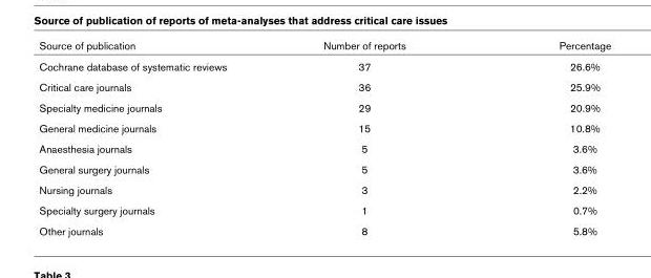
<table><thead><tr><td>Source of publication</td><td>Number of reports</td><td>Percentage</td></tr></thead><tbody><tr><td>Cochrane database of systematic reviews</td><td>37</td><td>26.6%</td></tr><tr><td>Critical care journals</td><td>36</td><td>25.9%</td></tr><tr><td>Specialty medicine journals</td><td>29</td><td>20.9%</td></tr><tr><td>General medicine journals</td><td>15</td><td>10.8%</td></tr><tr><td>Anaesthesia journals</td><td>5</td><td>3.6%</td></tr><tr><td>General surgery journals</td><td>5</td><td>3.6%</td></tr><tr><td>Nursing journals</td><td>3</td><td>2.2%</td></tr><tr><td>Specialty surgery journals</td><td>1</td><td>0.7%</td></tr><tr><td>Other journals</td><td>8</td><td>5.8%</td></tr></tbody></table>